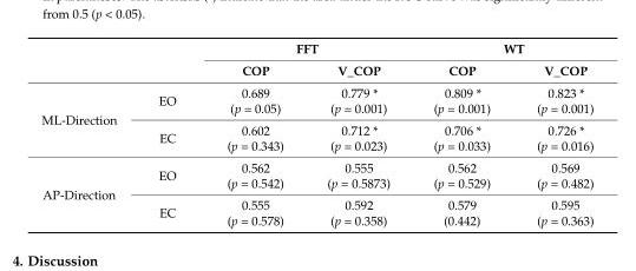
<table><thead><tr><td rowspan="2"></td><td rowspan="2"></td><td colspan="2">FFT</td><td colspan="2">WT</td></tr><tr><td>COP</td><td>V_COP</td><td>COP</td><td>V_COP</td></tr></thead><tbody><tr><td rowspan="2">ML-Direction</td><td>EO</td><td>0.689 (p = 0.05)</td><td>0.779 * (p = 0.001)</td><td>0.809 * (p = 0.001)</td><td>0.823 * (p = 0.001)</td></tr><tr><td>EC</td><td>0.602 (p = 0.343)</td><td>0.712 * (p = 0.023)</td><td>0.706 * (p = 0.033)</td><td>0.726 * (p = 0.016)</td></tr><tr><td rowspan="2">AP-Direction</td><td>EO</td><td>0.562 (p = 0.542)</td><td>0.555 (p = 0.5873)</td><td>0.562 (p = 0.529)</td><td>0.569 (p = 0.482)</td></tr><tr><td>EC</td><td>0.555 (p = 0.578)</td><td>0.592 (p = 0.358)</td><td>0.579 (0.442)</td><td>0.595 (p = 0.363)</td></tr></tbody></table>